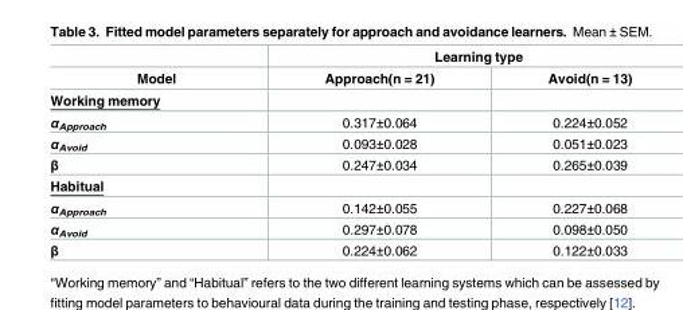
<table><thead><tr><td rowspan="2">Model</td><td colspan="2">Learning type</td></tr><tr><td>Approach(n = 21)</td><td>Avoid(n = 13)</td></tr></thead><tbody><tr><td colspan="3">Working memory</td></tr><tr><td>α<sub>Approach</sub></td><td>0.317±0.064</td><td>0.224±0.052</td></tr><tr><td>α<sub>Avoid</sub></td><td>0.093±0.028</td><td>0.051±0.023</td></tr><tr><td>β</td><td>0.247±0.034</td><td>0.265±0.039</td></tr><tr><td colspan="3">Habitual</td></tr><tr><td>α<sub>Approach</sub></td><td>0.142±0.055</td><td>0.227±0.068</td></tr><tr><td>α<sub>Avoid</sub></td><td>0.297±0.078</td><td>0.098±0.050</td></tr><tr><td>β</td><td>0.224±0.062</td><td>0.122±0.033</td></tr></tbody></table>